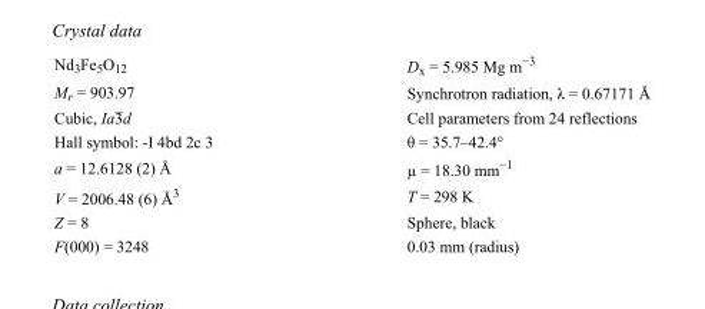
<table><tbody><tr><td>Nd<sub>3</sub>Fe<sub>5</sub>O<sub>12</sub></td><td>D<sub>x</sub> = 5.985 Mg m<sup>−3</sup></td></tr><tr><td>M<sub>r</sub> = 903.97</td><td>Synchrotron radiation, λ = 0.67171 Å</td></tr><tr><td>Cubic, Ia3d</td><td>Cell parameters from 24 reflections</td></tr><tr><td>Hall symbol: -I 4bd 2c 3</td><td>θ = 35.7–42.4°</td></tr><tr><td>a = 12.6128 (2) Å</td><td>µ = 18.30 mm<sup>−1</sup></td></tr><tr><td>V = 2006.48 (6) Å<sup>3</sup></td><td>T = 298 K</td></tr><tr><td>Z = 8</td><td>Sphere, black</td></tr><tr><td>F(000) = 3248</td><td>0.03 mm (radius)</td></tr></tbody></table>